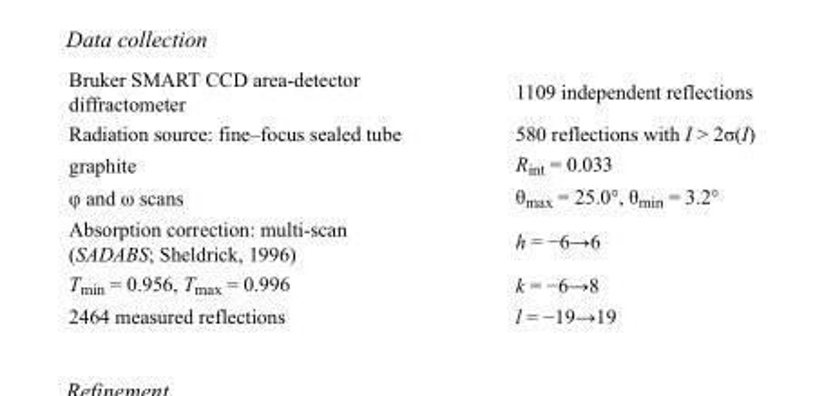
<table><tbody><tr><td>Bruker SMART CCD area-detector diffractometer</td><td>1109 independent reflections</td></tr><tr><td>Radiation source: fine–focus sealed tube</td><td>580 reflections with I &gt; 2σ(I)</td></tr><tr><td>graphite</td><td>R<sub>int</sub> = 0.033</td></tr><tr><td>φ and ω scans</td><td>θ<sub>max</sub> = 25.0°, θ<sub>min</sub> = 3.2°</td></tr><tr><td>Absorption correction: multi-scan (SADABS; Sheldrick, 1996)</td><td>h = −6→6</td></tr><tr><td>T<sub>min</sub> = 0.956, T<sub>max</sub> = 0.996</td><td>k = −6→8</td></tr><tr><td>2464 measured reflections</td><td>l = −19→19</td></tr></tbody></table>